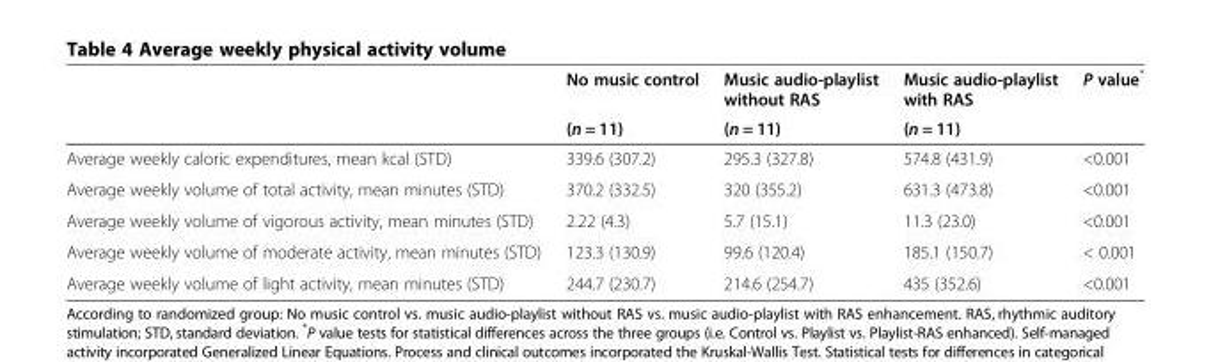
<table><thead><tr><td rowspan="2"></td><td rowspan="2">No music control (n = 11)</td><td rowspan="2">Music audio-playlist without RAS (n = 11)</td><td rowspan="2">Music audio-playlist with RAS (n = 11)</td><td rowspan="2">P value*</td></tr><tr></tr></thead><tbody><tr><td>Average weekly caloric expenditures, mean kcal (STD)</td><td>339.6 (307.2)</td><td>295.3 (327.8)</td><td>574.8 (431.9)</td><td>&lt;0.001</td></tr><tr><td>Average weekly volume of total activity, mean minutes (STD)</td><td>370.2 (332.5)</td><td>320 (355.2)</td><td>631.3 (473.8)</td><td>&lt;0.001</td></tr><tr><td>Average weekly volume of vigorous activity, mean minutes (STD)</td><td>2.22 (4.3)</td><td>5.7 (15.1)</td><td>11.3 (23.0)</td><td>&lt;0.001</td></tr><tr><td>Average weekly volume of moderate activity, mean minutes (STD)</td><td>123.3 (130.9)</td><td>99.6 (120.4)</td><td>185.1 (150.7)</td><td>&lt; 0.001</td></tr><tr><td>Average weekly volume of light activity, mean minutes (STD)</td><td>244.7 (230.7)</td><td>214.6 (254.7)</td><td>435 (352.6)</td><td>&lt;0.001</td></tr></tbody></table>